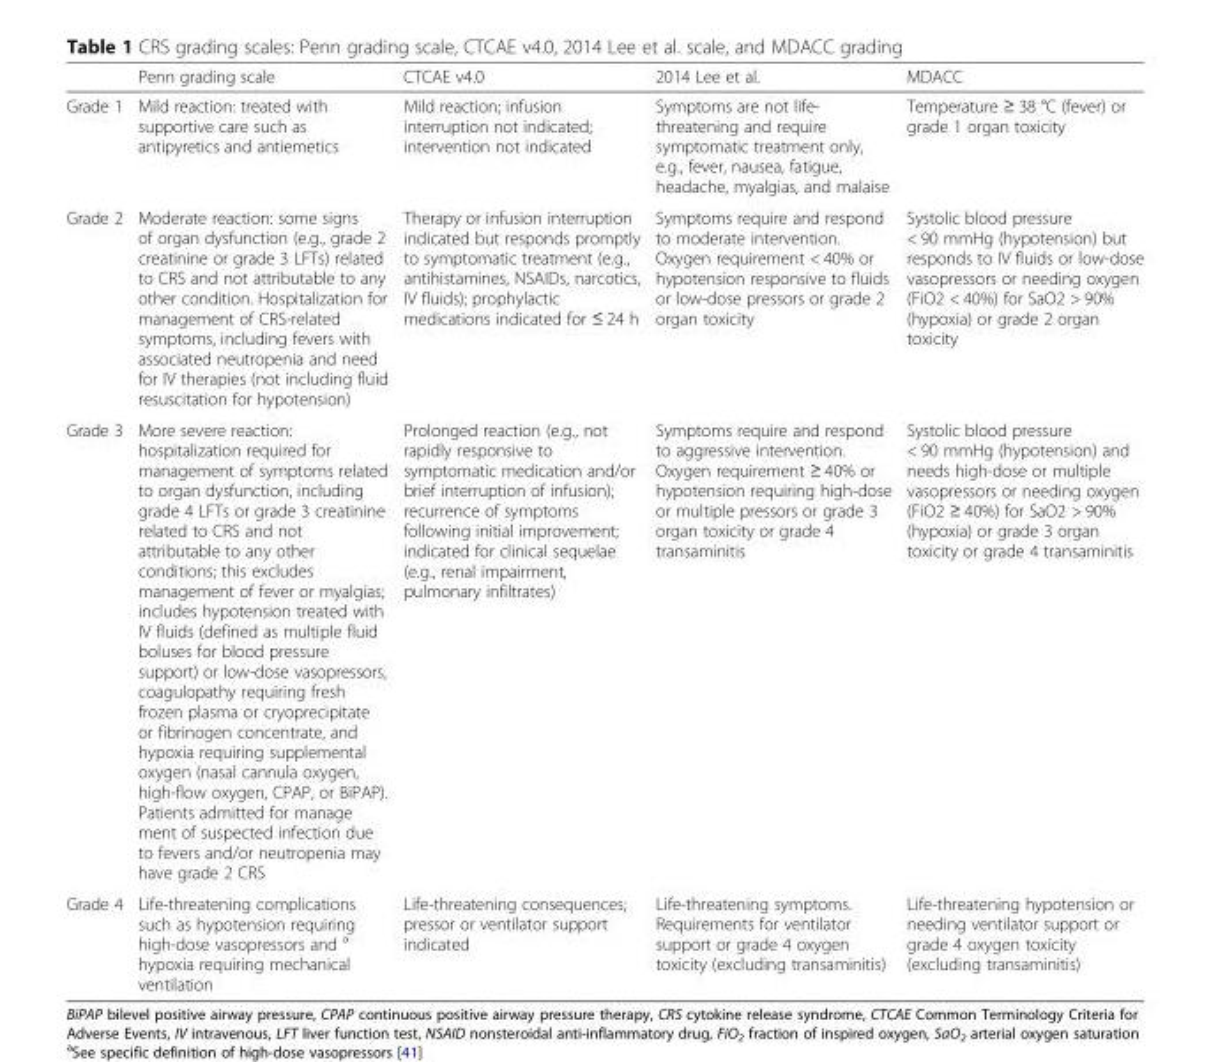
<table><thead><tr><td></td><td>Penn grading scale</td><td>CTCAE v4.0</td><td>2014 Lee et al.</td><td>MDACC</td></tr></thead><tbody><tr><td>Grade 1</td><td>Mild reaction: treated with supportive care such as antipyretics and antiemetics</td><td>Mild reaction; infusion interruption not indicated; intervention not indicated</td><td>Symptoms are not life- threatening and require symptomatic treatment only, e.g., fever, nausea, fatigue, headache, myalgias, and malaise</td><td>Temperature ≥ 38 °C (fever) or grade 1 organ toxicity</td></tr><tr><td>Grade 2</td><td>Moderate reaction: some signs of organ dysfunction (e.g., grade 2 creatinine or grade 3 LFTs) related to CRS and not attributable to any other condition. Hospitalization for management of CRS-related symptoms, including fevers with associated neutropenia and need for IV therapies (not including fluid resuscitation for hypotension)</td><td>Therapy or infusion interruption indicated but responds promptly to symptomatic treatment (e.g., antihistamines, NSAIDs, narcotics, IV fluids); prophylactic medications indicated for ≤ 24 h</td><td>Symptoms require and respond to moderate intervention. Oxygen requirement &lt; 40% or hypotension responsive to fluids or low-dose pressors or grade 2 organ toxicity</td><td>Systolic blood pressure &lt; 90 mmHg (hypotension) but responds to IV fluids or low-dose vasopressors or needing oxygen (FiO2 &lt; 40%) for SaO2 &gt; 90% (hypoxia) or grade 2 organ toxicity</td></tr><tr><td>Grade 3</td><td>More severe reaction: hospitalization required for management of symptoms related to organ dysfunction, including grade 4 LFTs or grade 3 creatinine related to CRS and not attributable to any other conditions; this excludes management of fever or myalgias; includes hypotension treated with IV fluids (defined as multiple fluid boluses for blood pressure support) or low-dose vasopressors, coagulopathy requiring fresh frozen plasma or cryoprecipitate or fibrinogen concentrate, and hypoxia requiring supplemental oxygen (nasal cannula oxygen, high-flow oxygen, CPAP, or BiPAP). Patients admitted for manage ment of suspected infection due to fevers and/or neutropenia may have grade 2 CRS</td><td>Prolonged reaction (e.g., not rapidly responsive to symptomatic medication and/or brief interruption of infusion); recurrence of symptoms following initial improvement; indicated for clinical sequelae (e.g., renal impairment, pulmonary infiltrates)</td><td>Symptoms require and respond to aggressive intervention. Oxygen requirement ≥ 40% or hypotension requiring high-dose or multiple pressors or grade 3 organ toxicity or grade 4 transaminitis</td><td>Systolic blood pressure &lt; 90 mmHg (hypotension) and needs high-dose or multiple vasopressors or needing oxygen (FiO2 ≥ 40%) for SaO2 &gt; 90% (hypoxia) or grade 3 organ toxicity or grade 4 transaminitis</td></tr><tr><td>Grade 4</td><td>Life-threatening complications such as hypotension requiring high-dose vasopressors and <sup>a</sup> hypoxia requiring mechanical ventilation</td><td>Life-threatening consequences; pressor or ventilator support indicated</td><td>Life-threatening symptoms. Requirements for ventilator support or grade 4 oxygen toxicity (excluding transaminitis)</td><td>Life-threatening hypotension or needing ventilator support or grade 4 oxygen toxicity (excluding transaminitis)</td></tr></tbody></table>